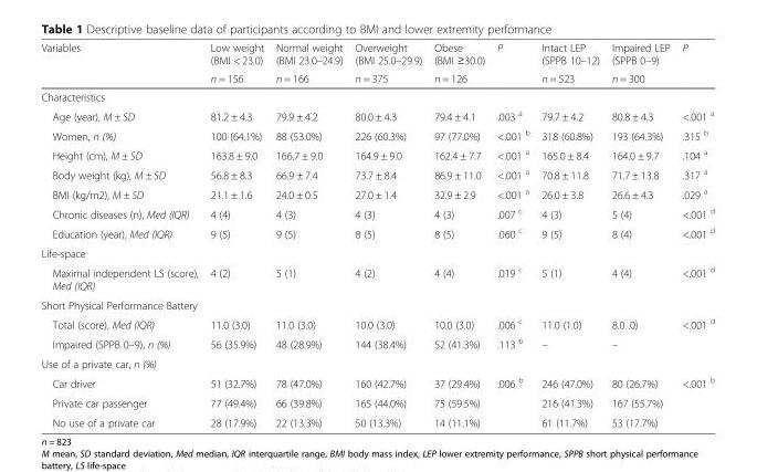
<table><thead><tr><td rowspan="2">Variables</td><td rowspan="2">Low weight (BMI &lt; 23.0) n = 156</td><td rowspan="2">Normal weight (BMI 23.0–24.9) n = 166</td><td rowspan="2">Overweight (BMI 25.0–29.9) n = 375</td><td rowspan="2">Obese (BMI ≥30.0) n = 126</td><td rowspan="2">P</td><td rowspan="2">Intact LEP (SPPB 10–12) n = 523</td><td rowspan="2">Impaired LEP (SPPB 0–9) n = 300</td><td rowspan="2">P</td></tr><tr></tr></thead><tbody><tr><td colspan="9">Characteristics</td></tr><tr><td>Age (year), M ± SD</td><td>81.2 ± 4.3</td><td>79.9 ± 4.2</td><td>80.0 ± 4.3</td><td>79.4 ± 4.1</td><td>.003 <sup>a</sup></td><td>79.7 ± 4.2</td><td>80.8 ± 4.3</td><td>&lt;.001 <sup>a</sup></td></tr><tr><td>Women, n (%)</td><td>100 (64.1%)</td><td>88 (53.0%)</td><td>226 (60.3%)</td><td>97 (77.0%)</td><td>&lt;.001 <sup>b</sup></td><td>318 (60.8%)</td><td>193 (64.3%)</td><td>.315 <sup>b</sup></td></tr><tr><td>Height (cm), M ± SD</td><td>163.8 ± 9.0</td><td>166.7 ± 9.0</td><td>164.9 ± 9.0</td><td>162.4 ± 7.7</td><td>&lt;.001 <sup>a</sup></td><td>165.0 ± 8.4</td><td>164.0 ± 9.7</td><td>.104 <sup>a</sup></td></tr><tr><td>Body weight (kg), M ± SD</td><td>56.8 ± 8.3</td><td>66.9 ± 7.4</td><td>73.7 ± 8.4</td><td>86.9 ± 11.0</td><td>&lt;.001 <sup>a</sup></td><td>70.8 ± 11.8</td><td>71.7 ± 13.8</td><td>.317 <sup>a</sup></td></tr><tr><td>BMI (kg/m2), M ± SD</td><td>21.1 ± 1.6</td><td>24.0 ± 0.5</td><td>27.0 ± 1.4</td><td>32.9 ± 2.9</td><td>&lt;.001 <sup>a</sup></td><td>26.0 ± 3.8</td><td>26.6 ± 4.3</td><td>.029 <sup>a</sup></td></tr><tr><td>Chronic diseases (n), Med (IQR)</td><td>4 (4)</td><td>4 (3)</td><td>4 (3)</td><td>4 (3)</td><td>.007 <sup>c</sup></td><td>4 (3)</td><td>5 (4)</td><td>&lt;.001 <sup>d</sup></td></tr><tr><td>Education (year), Med (IQR)</td><td>9 (5)</td><td>9 (5)</td><td>8 (5)</td><td>8 (5)</td><td>.060 <sup>c</sup></td><td>9 (5)</td><td>8 (4)</td><td>&lt;.001 <sup>d</sup></td></tr><tr><td colspan="9">Life-space</td></tr><tr><td>Maximal independent LS (score), Med (IQR)</td><td>4 (2)</td><td>5 (1)</td><td>4 (2)</td><td>4 (4)</td><td>.019 <sup>c</sup></td><td>5 (1)</td><td>4 (4)</td><td>&lt;.001 <sup>d</sup></td></tr><tr><td colspan="9">Short Physical Performance Battery</td></tr><tr><td>Total (score), Med (IQR)</td><td>11.0 (3.0)</td><td>11.0 (3.0)</td><td>10.0 (3.0)</td><td>10.0 (3.0)</td><td>.006 <sup>c</sup></td><td>11.0 (1.0)</td><td>8.0 .0)</td><td>&lt;.001 <sup>d</sup></td></tr><tr><td>Impaired (SPPB 0–9), n (%)</td><td>56 (35.9%)</td><td>48 (28.9%)</td><td>144 (38.4%)</td><td>52 (41.3%)</td><td>.113 <sup>b</sup></td><td>–</td><td>–</td><td></td></tr><tr><td colspan="9">Use of a private car, n (%)</td></tr><tr><td>Car driver</td><td>51 (32.7%)</td><td>78 (47.0%)</td><td>160 (42.7%)</td><td>37 (29.4%)</td><td>.006 <sup>b</sup></td><td>246 (47.0%)</td><td>80 (26.7%)</td><td>&lt;.001 <sup>b</sup></td></tr><tr><td>Private car passenger</td><td>77 (49.4%)</td><td>66 (39.8%)</td><td>165 (44.0%)</td><td>75 (59.5%)</td><td></td><td>216 (41.3%)</td><td>167 (55.7%)</td><td></td></tr><tr><td>No use of a private car</td><td>28 (17.9%)</td><td>22 (13.3%)</td><td>50 (13.3%)</td><td>14 (11.1%)</td><td></td><td>61 (11.7%)</td><td>53 (17.7%)</td><td></td></tr></tbody></table>